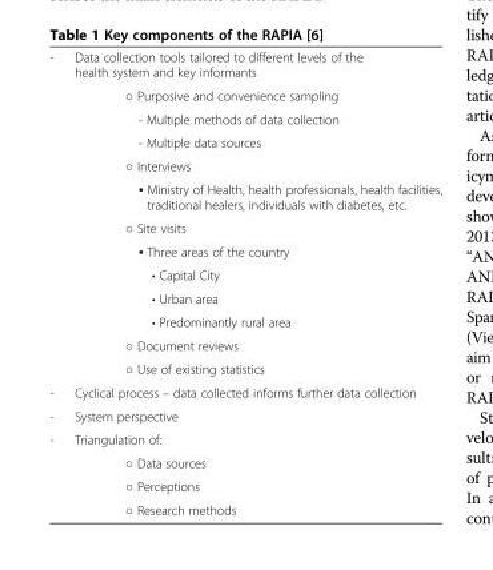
<table><tbody><tr><td rowspan="13">-</td><td>Data collection tools tailored to different levels of the health system and key informants</td></tr><tr><td>○ Purposive and convenience sampling</td></tr><tr><td>- Multiple methods of data collection</td></tr><tr><td>- Multiple data sources</td></tr><tr><td>○ Interviews</td></tr><tr><td>▪ Ministry of Health, health professionals, health facilities, traditional healers, individuals with diabetes, etc.</td></tr><tr><td>○ Site visits</td></tr><tr><td>▪ Three areas of the country</td></tr><tr><td>• Capital City</td></tr><tr><td>• Urban area</td></tr><tr><td>• Predominantly rural area</td></tr><tr><td>○ Document reviews</td></tr><tr><td>○ Use of existing statistics</td></tr><tr><td>-</td><td>Cyclical process – data collected informs further data collection</td></tr><tr><td>-</td><td>System perspective</td></tr><tr><td rowspan="4">-</td><td>Triangulation of:</td></tr><tr><td>○ Data sources</td></tr><tr><td>○ Perceptions</td></tr><tr><td>○ Research methods</td></tr></tbody></table>